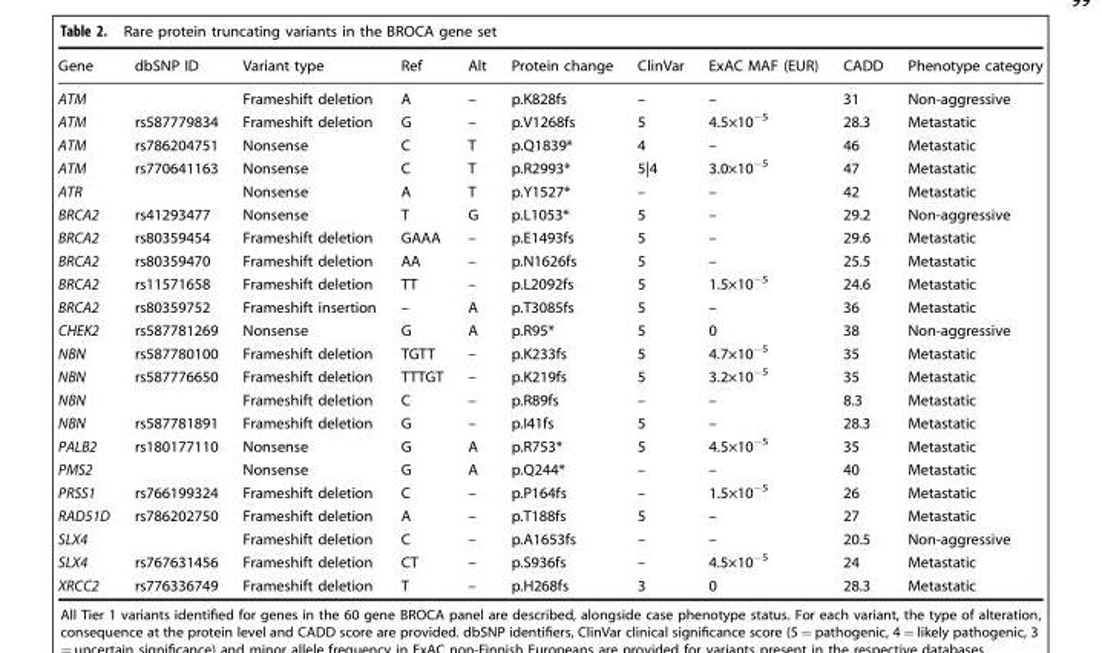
<table><thead><tr><td>Gene</td><td>dbSNP ID</td><td>Variant type</td><td>Ref</td><td>Alt</td><td>Protein change</td><td>ClinVar</td><td>ExAC MAF (EUR)</td><td>CADD</td><td>Phenotype category</td></tr></thead><tbody><tr><td>ATM</td><td></td><td>Frameshift deletion</td><td>A</td><td>–</td><td>p.K828fs</td><td>–</td><td>–</td><td>31</td><td>Non-aggressive</td></tr><tr><td>ATM</td><td>rs587779834</td><td>Frameshift deletion</td><td>G</td><td>–</td><td>p.V1268fs</td><td>5</td><td>4.5×10<sup>−5</sup></td><td>28.3</td><td>Metastatic</td></tr><tr><td>ATM</td><td>rs786204751</td><td>Nonsense</td><td>C</td><td>T</td><td>p.Q1839*</td><td>4</td><td>–</td><td>46</td><td>Metastatic</td></tr><tr><td>ATM</td><td>rs770641163</td><td>Nonsense</td><td>C</td><td>T</td><td>p.R2993*</td><td>5|4</td><td>3.0×10<sup>−5</sup></td><td>47</td><td>Metastatic</td></tr><tr><td>ATR</td><td></td><td>Nonsense</td><td>A</td><td>T</td><td>p.Y1527*</td><td>–</td><td>–</td><td>42</td><td>Metastatic</td></tr><tr><td>BRCA2</td><td>rs41293477</td><td>Nonsense</td><td>T</td><td>G</td><td>p.L1053*</td><td>5</td><td>–</td><td>29.2</td><td>Non-aggressive</td></tr><tr><td>BRCA2</td><td>rs80359454</td><td>Frameshift deletion</td><td>GAAA</td><td>–</td><td>p.E1493fs</td><td>5</td><td>–</td><td>29.6</td><td>Metastatic</td></tr><tr><td>BRCA2</td><td>rs80359470</td><td>Frameshift deletion</td><td>AA</td><td>–</td><td>p.N1626fs</td><td>5</td><td>–</td><td>25.5</td><td>Metastatic</td></tr><tr><td>BRCA2</td><td>rs11571658</td><td>Frameshift deletion</td><td>TT</td><td>–</td><td>p.L2092fs</td><td>5</td><td>1.5×10<sup>−5</sup></td><td>24.6</td><td>Metastatic</td></tr><tr><td>BRCA2</td><td>rs80359752</td><td>Frameshift insertion</td><td>–</td><td>A</td><td>p.T3085fs</td><td>5</td><td>–</td><td>36</td><td>Metastatic</td></tr><tr><td>CHEK2</td><td>rs587781269</td><td>Nonsense</td><td>G</td><td>A</td><td>p.R95*</td><td>5</td><td>0</td><td>38</td><td>Non-aggressive</td></tr><tr><td>NBN</td><td>rs587780100</td><td>Frameshift deletion</td><td>TGTT</td><td>–</td><td>p.K233fs</td><td>5</td><td>4.7×10<sup>−5</sup></td><td>35</td><td>Metastatic</td></tr><tr><td>NBN</td><td>rs587776650</td><td>Frameshift deletion</td><td>TTTGT</td><td>–</td><td>p.K219fs</td><td>5</td><td>3.2×10<sup>−5</sup></td><td>35</td><td>Metastatic</td></tr><tr><td>NBN</td><td></td><td>Frameshift deletion</td><td>C</td><td>–</td><td>p.R89fs</td><td>–</td><td>–</td><td>8.3</td><td>Metastatic</td></tr><tr><td>NBN</td><td>rs587781891</td><td>Frameshift deletion</td><td>G</td><td>–</td><td>p.I41fs</td><td>5</td><td>–</td><td>28.3</td><td>Metastatic</td></tr><tr><td>PALB2</td><td>rs180177110</td><td>Nonsense</td><td>G</td><td>A</td><td>p.R753*</td><td>5</td><td>4.5×10<sup>−5</sup></td><td>35</td><td>Metastatic</td></tr><tr><td>PMS2</td><td></td><td>Nonsense</td><td>G</td><td>A</td><td>p.Q244*</td><td>–</td><td>–</td><td>40</td><td>Metastatic</td></tr><tr><td>PRSS1</td><td>rs766199324</td><td>Frameshift deletion</td><td>C</td><td>–</td><td>p.P164fs</td><td>–</td><td>1.5×10<sup>−5</sup></td><td>26</td><td>Metastatic</td></tr><tr><td>RAD51D</td><td>rs786202750</td><td>Frameshift deletion</td><td>A</td><td>–</td><td>p.T188fs</td><td>5</td><td>–</td><td>27</td><td>Metastatic</td></tr><tr><td>SLX4</td><td></td><td>Frameshift deletion</td><td>C</td><td>–</td><td>p.A1653fs</td><td>–</td><td>–</td><td>20.5</td><td>Non-aggressive</td></tr><tr><td>SLX4</td><td>rs767631456</td><td>Frameshift deletion</td><td>CT</td><td>–</td><td>p.S936fs</td><td>–</td><td>4.5×10<sup>−5</sup></td><td>24</td><td>Metastatic</td></tr><tr><td>XRCC2</td><td>rs776336749</td><td>Frameshift deletion</td><td>T</td><td>–</td><td>p.H268fs</td><td>3</td><td>0</td><td>28.3</td><td>Metastatic</td></tr></tbody></table>